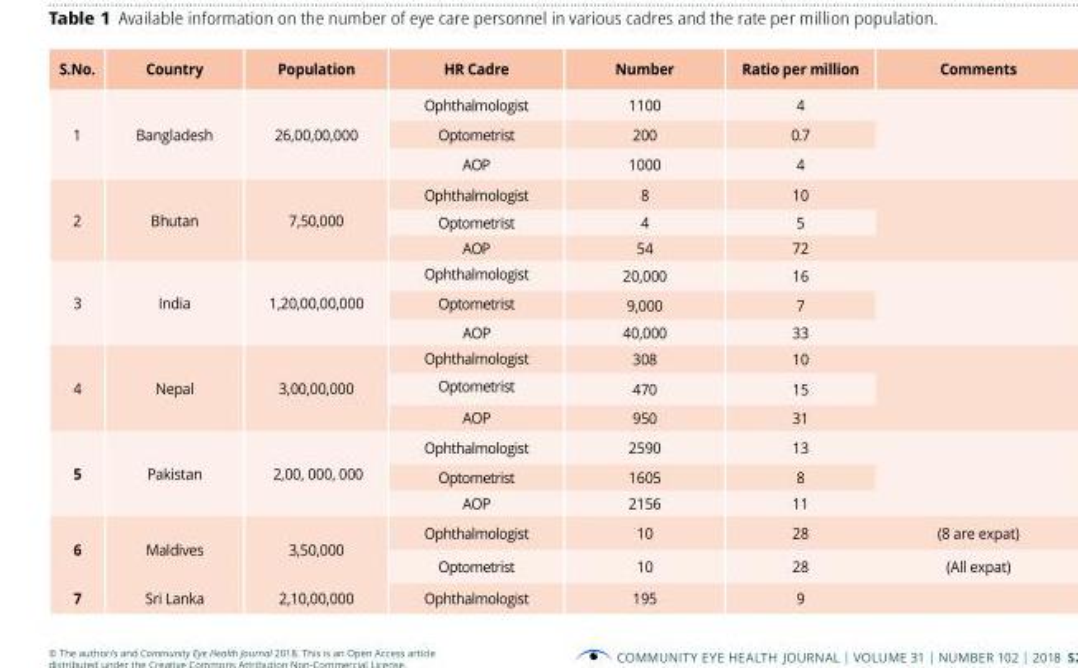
<table><thead><tr><td>S.No.</td><td>Country</td><td>Population</td><td>HR Cadre</td><td>Number</td><td>Ratio per million</td><td>Comments</td></tr></thead><tbody><tr><td rowspan="3">1</td><td rowspan="3">Bangladesh</td><td rowspan="3">26,00,00,000</td><td>Ophthalmologist</td><td>1100</td><td>4</td><td></td></tr><tr><td>Optometrist</td><td>200</td><td>0.7</td><td></td></tr><tr><td>AOP</td><td>1000</td><td>4</td><td></td></tr><tr><td rowspan="3">2</td><td rowspan="3">Bhutan</td><td rowspan="3">7,50,000</td><td>Ophthalmologist</td><td>8</td><td>10</td><td></td></tr><tr><td>Optometrist</td><td>4</td><td>5</td><td></td></tr><tr><td>AOP</td><td>54</td><td>72</td><td></td></tr><tr><td rowspan="3">3</td><td rowspan="3">India</td><td rowspan="3">1,20,00,00,000</td><td>Ophthalmologist</td><td>20,000</td><td>16</td><td></td></tr><tr><td>Optometrist</td><td>9,000</td><td>7</td><td></td></tr><tr><td>AOP</td><td>40,000</td><td>33</td><td></td></tr><tr><td rowspan="3">4</td><td rowspan="3">Nepal</td><td rowspan="3">3,00,00,000</td><td>Ophthalmologist</td><td>308</td><td>10</td><td></td></tr><tr><td>Optometrist</td><td>470</td><td>15</td><td></td></tr><tr><td>AOP</td><td>950</td><td>31</td><td></td></tr><tr><td rowspan="3">5</td><td rowspan="3">Pakistan</td><td rowspan="3">2,00, 000, 000</td><td>Ophthalmologist</td><td>2590</td><td>13</td><td></td></tr><tr><td>Optometrist</td><td>1605</td><td>8</td><td></td></tr><tr><td>AOP</td><td>2156</td><td>11</td><td></td></tr><tr><td rowspan="2">6</td><td rowspan="2">Maldives</td><td rowspan="2">3,50,000</td><td>Ophthalmologist</td><td>10</td><td>28</td><td>(8 are expat)</td></tr><tr><td>Optometrist</td><td>10</td><td>28</td><td>(All expat)</td></tr><tr><td>7</td><td>Sri Lanka</td><td>2,10,00,000</td><td>Ophthalmologist</td><td>195</td><td>9</td><td></td></tr></tbody></table>